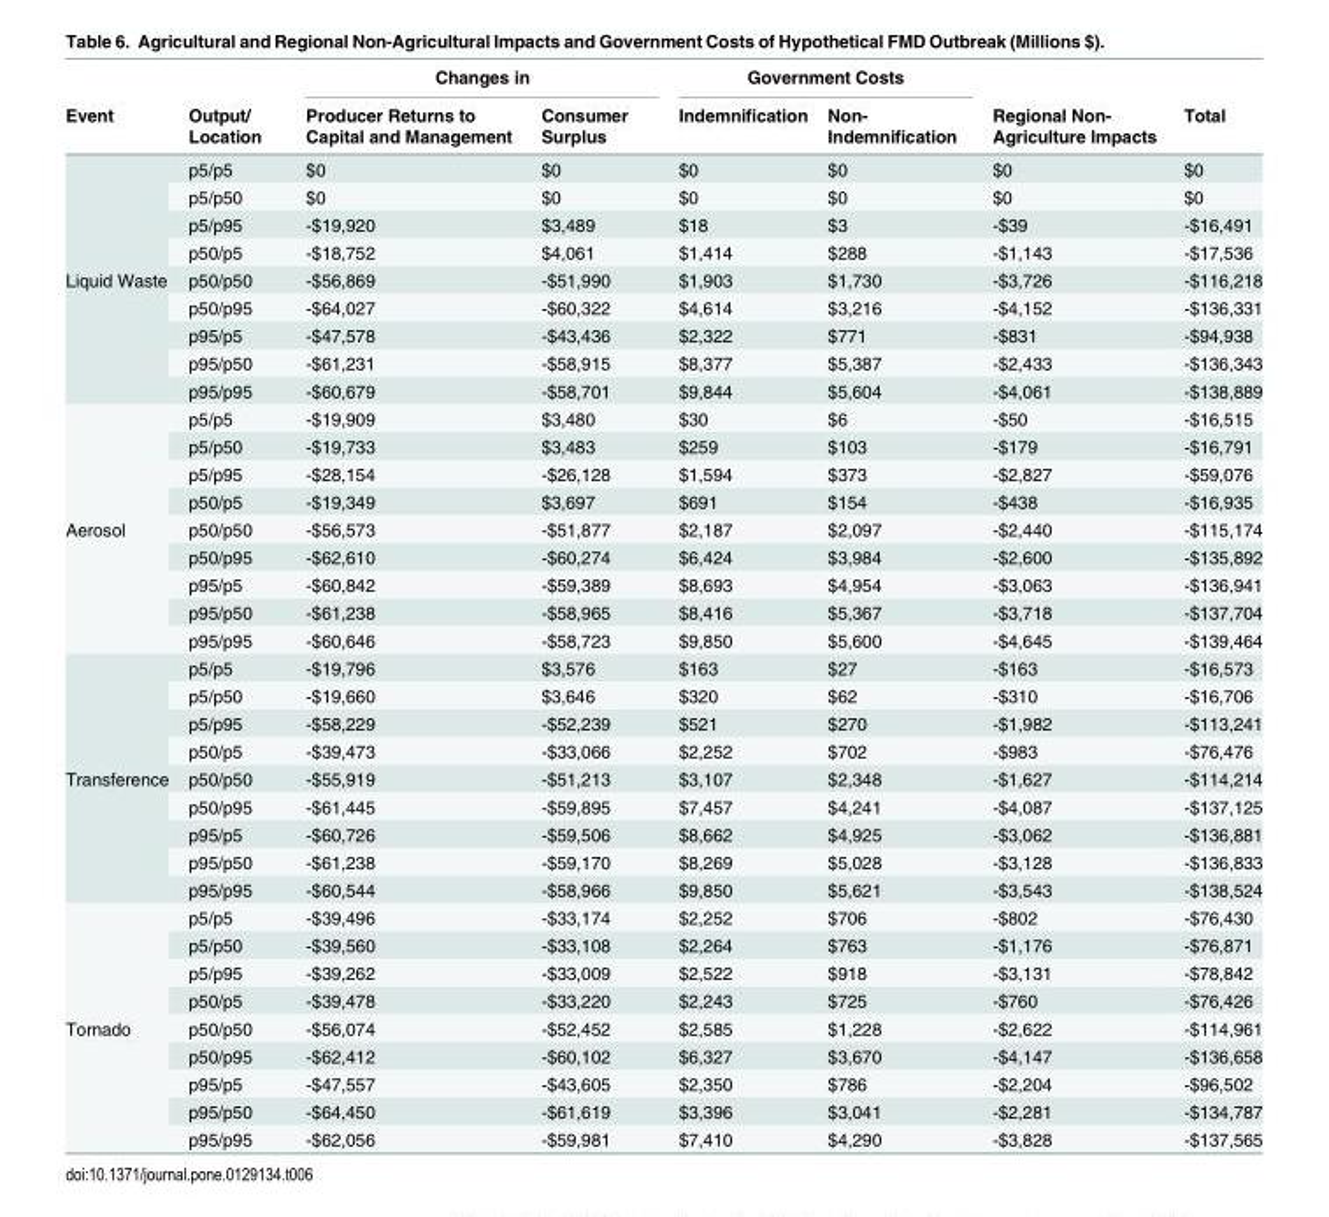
<table><thead><tr><td rowspan="2">Event</td><td rowspan="2">Output/ Location</td><td colspan="2">Changes in</td><td colspan="2">Government Costs</td><td rowspan="2">Regional Non- Agriculture Impacts</td><td rowspan="2">Total</td></tr><tr><td>Producer Returns to Capital and Management</td><td>Consumer Surplus</td><td>Indemnification</td><td>Non- Indemnification</td></tr></thead><tbody><tr><td rowspan="9">Liquid Waste</td><td>p5/p5</td><td>$0</td><td>$0</td><td>$0</td><td>$0</td><td>$0</td><td>$0</td></tr><tr><td>p5/p50</td><td>$0</td><td>$0</td><td>$0</td><td>$0</td><td>$0</td><td>$0</td></tr><tr><td>p5/p95</td><td>-$19,920</td><td>$3,489</td><td>$18</td><td>$3</td><td>-$39</td><td>-$16,491</td></tr><tr><td>p50/p5</td><td>-$18,752</td><td>$4,061</td><td>$1,414</td><td>$288</td><td>-$1,143</td><td>-$17,536</td></tr><tr><td>p50/p50</td><td>-$56,869</td><td>-$51,990</td><td>$1,903</td><td>$1,730</td><td>-$3,726</td><td>-$116,218</td></tr><tr><td>p50/p95</td><td>-$64,027</td><td>-$60,322</td><td>$4,614</td><td>$3,216</td><td>-$4,152</td><td>-$136,331</td></tr><tr><td>p95/p5</td><td>-$47,578</td><td>-$43,436</td><td>$2,322</td><td>$771</td><td>-$831</td><td>-$94,938</td></tr><tr><td>p95/p50</td><td>-$61,231</td><td>-$58,915</td><td>$8,377</td><td>$5,387</td><td>-$2,433</td><td>-$136,343</td></tr><tr><td>p95/p95</td><td>-$60,679</td><td>-$58,701</td><td>$9,844</td><td>$5,604</td><td>-$4,061</td><td>-$138,889</td></tr><tr><td rowspan="9">Aerosol</td><td>p5/p5</td><td>-$19,909</td><td>$3,480</td><td>$30</td><td>$6</td><td>-$50</td><td>-$16,515</td></tr><tr><td>p5/p50</td><td>-$19,733</td><td>$3,483</td><td>$259</td><td>$103</td><td>-$179</td><td>-$16,791</td></tr><tr><td>p5/p95</td><td>-$28,154</td><td>-$26,128</td><td>$1,594</td><td>$373</td><td>-$2,827</td><td>-$59,076</td></tr><tr><td>p50/p5</td><td>-$19,349</td><td>$3,697</td><td>$691</td><td>$154</td><td>-$438</td><td>-$16,935</td></tr><tr><td>p50/p50</td><td>-$56,573</td><td>-$51,877</td><td>$2,187</td><td>$2,097</td><td>-$2,440</td><td>-$115,174</td></tr><tr><td>p50/p95</td><td>-$62,610</td><td>-$60,274</td><td>$6,424</td><td>$3,984</td><td>-$2,600</td><td>-$135,892</td></tr><tr><td>p95/p5</td><td>-$60,842</td><td>-$59,389</td><td>$8,693</td><td>$4,954</td><td>-$3,063</td><td>-$136,941</td></tr><tr><td>p95/p50</td><td>-$61,238</td><td>-$58,965</td><td>$8,416</td><td>$5,367</td><td>-$3,718</td><td>-$137,704</td></tr><tr><td>p95/p95</td><td>-$60,646</td><td>-$58,723</td><td>$9,850</td><td>$5,600</td><td>-$4,645</td><td>-$139,464</td></tr><tr><td rowspan="9">Transference</td><td>p5/p5</td><td>-$19,796</td><td>$3,576</td><td>$163</td><td>$27</td><td>-$163</td><td>-$16,573</td></tr><tr><td>p5/p50</td><td>-$19,660</td><td>$3,646</td><td>$320</td><td>$62</td><td>-$310</td><td>-$16,706</td></tr><tr><td>p5/p95</td><td>-$58,229</td><td>-$52,239</td><td>$521</td><td>$270</td><td>-$1,982</td><td>-$113,241</td></tr><tr><td>p50/p5</td><td>-$39,473</td><td>-$33,066</td><td>$2,252</td><td>$702</td><td>-$983</td><td>-$76,476</td></tr><tr><td>p50/p50</td><td>-$55,919</td><td>-$51,213</td><td>$3,107</td><td>$2,348</td><td>-$1,627</td><td>-$114,214</td></tr><tr><td>p50/p95</td><td>-$61,445</td><td>-$59,895</td><td>$7,457</td><td>$4,241</td><td>-$4,087</td><td>-$137,125</td></tr><tr><td>p95/p5</td><td>-$60,726</td><td>-$59,506</td><td>$8,662</td><td>$4,925</td><td>-$3,062</td><td>-$136,881</td></tr><tr><td>p95/p50</td><td>-$61,238</td><td>-$59,170</td><td>$8,269</td><td>$5,028</td><td>-$3,128</td><td>-$136,833</td></tr><tr><td>p95/p95</td><td>-$60,544</td><td>-$58,966</td><td>$9,850</td><td>$5,621</td><td>-$3,543</td><td>-$138,524</td></tr><tr><td rowspan="9">Tornado</td><td>p5/p5</td><td>-$39,496</td><td>-$33,174</td><td>$2,252</td><td>$706</td><td>-$802</td><td>-$76,430</td></tr><tr><td>p5/p50</td><td>-$39,560</td><td>-$33,108</td><td>$2,264</td><td>$763</td><td>-$1,176</td><td>-$76,871</td></tr><tr><td>p5/p95</td><td>-$39,262</td><td>-$33,009</td><td>$2,522</td><td>$918</td><td>-$3,131</td><td>-$78,842</td></tr><tr><td>p50/p5</td><td>-$39,478</td><td>-$33,220</td><td>$2,243</td><td>$725</td><td>-$760</td><td>-$76,426</td></tr><tr><td>p50/p50</td><td>-$56,074</td><td>-$52,452</td><td>$2,585</td><td>$1,228</td><td>-$2,622</td><td>-$114,961</td></tr><tr><td>p50/p95</td><td>-$62,412</td><td>-$60,102</td><td>$6,327</td><td>$3,670</td><td>-$4,147</td><td>-$136,658</td></tr><tr><td>p95/p5</td><td>-$47,557</td><td>-$43,605</td><td>$2,350</td><td>$786</td><td>-$2,204</td><td>-$96,502</td></tr><tr><td>p95/p50</td><td>-$64,450</td><td>-$61,619</td><td>$3,396</td><td>$3,041</td><td>-$2,281</td><td>-$134,787</td></tr><tr><td>p95/p95</td><td>-$62,056</td><td>-$59,981</td><td>$7,410</td><td>$4,290</td><td>-$3,828</td><td>-$137,565</td></tr></tbody></table>